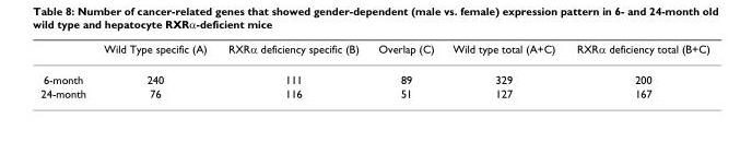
<table><thead><tr><td></td><td>Wild Type specific (A)</td><td>RXRα deficiency specific (B)</td><td>Overlap (C)</td><td>Wild type total (A+C)</td><td>RXRα deficiency total (B+C)</td></tr></thead><tbody><tr><td>6-month</td><td>240</td><td>111</td><td>89</td><td>329</td><td>200</td></tr><tr><td>24-month</td><td>76</td><td>116</td><td>51</td><td>127</td><td>167</td></tr></tbody></table>